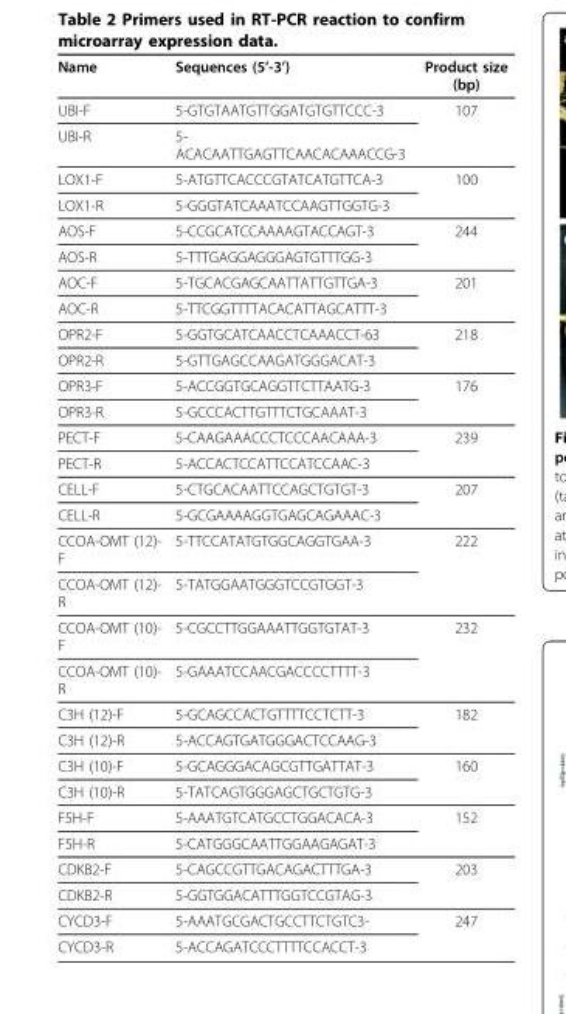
<table><thead><tr><td>Name</td><td>Sequences (5’-3’)</td><td>Product size (bp)</td></tr></thead><tbody><tr><td>UBI-F</td><td>5-GTGTAATGTTGGATGTGTTCCC-3</td><td>107</td></tr><tr><td>UBI-R</td><td>5- ACACAATTGAGTTCAACACAAACCG-3</td><td></td></tr><tr><td>LOX1-F</td><td>5-ATGTTCACCCGTATCATGTTCA-3</td><td>100</td></tr><tr><td>LOX1-R</td><td>5-GGGTATCAAATCCAAGTTGGTG-3</td><td></td></tr><tr><td>AOS-F</td><td>5-CCGCATCCAAAAGTACCAGT-3</td><td>244</td></tr><tr><td>AOS-R</td><td>5-TTTGAGGAGGGAGTGTTTGG-3</td><td></td></tr><tr><td>AOC-F</td><td>5-TGCACGAGCAATTATTGTTGA-3</td><td>201</td></tr><tr><td>AOC-R</td><td>5-TTCGGTTTTACACATTAGCATTT-3</td><td></td></tr><tr><td>OPR2-F</td><td>5-GGTGCATCAACCTCAAACCT-63</td><td>218</td></tr><tr><td>OPR2-R</td><td>5-GTTGAGCCAAGATGGGACAT-3</td><td></td></tr><tr><td>OPR3-F</td><td>5-ACCGGTGCAGGTTCTTAATG-3</td><td>176</td></tr><tr><td>OPR3-R</td><td>5-GCCCACTTGTTTCTGCAAAT-3</td><td></td></tr><tr><td>PECT-F</td><td>5-CAAGAAACCCTCCCAACAAA-3</td><td>239</td></tr><tr><td>PECT-R</td><td>5-ACCACTCCATTCCATCCAAC-3</td><td></td></tr><tr><td>CELL-F</td><td>5-CTGCACAATTCCAGCTGTGT-3</td><td>207</td></tr><tr><td>CELL-R</td><td>5-GCGAAAAGGTGAGCAGAAAC-3</td><td></td></tr><tr><td>CCOA-OMT (12)- F</td><td>5-TTCCATATGTGGCAGGTGAA-3</td><td>222</td></tr><tr><td>CCOA-OMT (12)- R</td><td>5-TATGGAATGGGTCCGTGGT-3</td><td></td></tr><tr><td>CCOA-OMT (10)- F</td><td>5-CGCCTTGGAAATTGGTGTAT-3</td><td>232</td></tr><tr><td>CCOA-OMT (10)- R</td><td>5-GAAATCCAACGACCCCTTTT-3</td><td></td></tr><tr><td>C3H (12)-F</td><td>5-GCAGCCACTGTTTTCCTCTT-3</td><td>182</td></tr><tr><td>C3H (12)-R</td><td>5-ACCAGTGATGGGACTCCAAG-3</td><td></td></tr><tr><td>C3H (10)-F</td><td>5-GCAGGGACAGCGTTGATTAT-3</td><td>160</td></tr><tr><td>C3H (10)-R</td><td>5-TATCAGTGGGAGCTGCTGTG-3</td><td></td></tr><tr><td>F5H-F</td><td>5-AAATGTCATGCCTGGACACA-3</td><td>152</td></tr><tr><td>F5H-R</td><td>5-CATGGGCAATTGGAAGAGAT-3</td><td></td></tr><tr><td>CDKB2-F</td><td>5-CAGCCGTTGACAGACTTTGA-3</td><td>203</td></tr><tr><td>CDKB2-R</td><td>5-GGTGGACATTTGGTCCGTAG-3</td><td></td></tr><tr><td>CYCD3-F</td><td>5-AAATGCGACTGCCTTCTGTC3-</td><td>247</td></tr><tr><td>CYCD3-R</td><td>5-ACCAGATCCCTTTTCCACCT-3</td><td></td></tr></tbody></table>